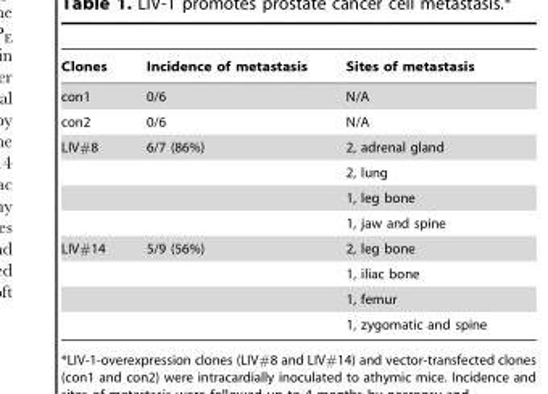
<table><thead><tr><td>Clones</td><td>Incidence of metastasis</td><td>Sites of metastasis</td></tr></thead><tbody><tr><td>con1</td><td>0/6</td><td>N/A</td></tr><tr><td>con2</td><td>0/6</td><td>N/A</td></tr><tr><td rowspan="4">LIV#8</td><td>6/7 (86%)</td><td>2, adrenal gland</td></tr><tr><td></td><td>2, lung</td></tr><tr><td></td><td>1, leg bone</td></tr><tr><td></td><td>1, jaw and spine</td></tr><tr><td rowspan="4">LIV#14</td><td>5/9 (56%)</td><td>2, leg bone</td></tr><tr><td></td><td>1, iliac bone</td></tr><tr><td></td><td>1, femur</td></tr><tr><td></td><td>1, zygomatic and spine</td></tr></tbody></table>